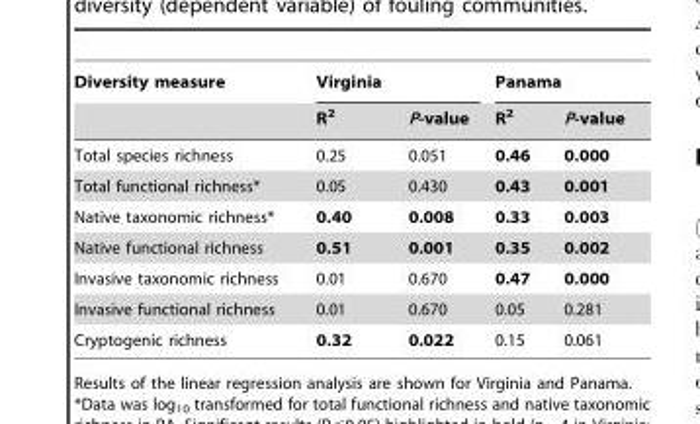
<table><thead><tr><td rowspan="2">Diversity measure</td><td colspan="2">Virginia</td><td colspan="2">Panama</td></tr><tr><td>R<sup>2</sup></td><td>P-value</td><td>R<sup>2</sup></td><td>P-value</td></tr></thead><tbody><tr><td>Total species richness</td><td>0.25</td><td>0.051</td><td>0.46</td><td>0.000</td></tr><tr><td>Total functional richness*</td><td>0.05</td><td>0.430</td><td>0.43</td><td>0.001</td></tr><tr><td>Native taxonomic richness*</td><td>0.40</td><td>0.008</td><td>0.33</td><td>0.003</td></tr><tr><td>Native functional richness</td><td>0.51</td><td>0.001</td><td>0.35</td><td>0.002</td></tr><tr><td>Invasive taxonomic richness</td><td>0.01</td><td>0.670</td><td>0.47</td><td>0.000</td></tr><tr><td>Invasive functional richness</td><td>0.01</td><td>0.670</td><td>0.05</td><td>0.281</td></tr><tr><td>Cryptogenic richness</td><td>0.32</td><td>0.022</td><td>0.15</td><td>0.061</td></tr></tbody></table>